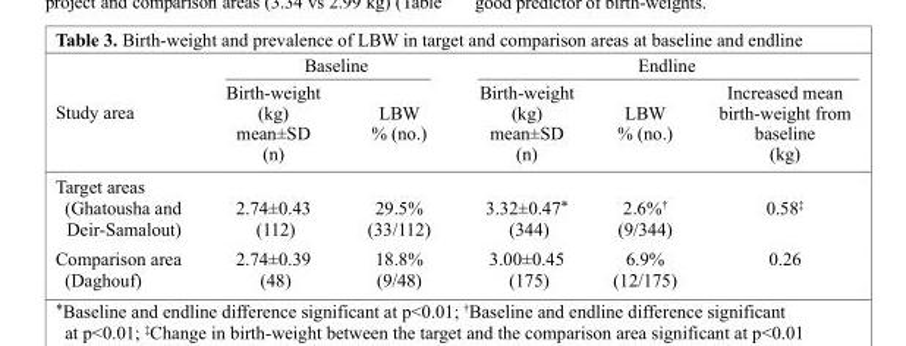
<table><thead><tr><td rowspan="2">Study area</td><td colspan="2">Baseline</td><td colspan="3">Endline</td></tr><tr><td>Birth-weight (kg) mean±SD (n)</td><td>LBW % (no.)</td><td>Birth-weight (kg) mean±SD (n)</td><td>LBW % (no.)</td><td>Increased mean birth-weight from baseline (kg)</td></tr></thead><tbody><tr><td>Target areas (Ghatousha and Deir-Samalout)</td><td>2.74±0.43 (112)</td><td>29.5% (33/112)</td><td>3.32±0.47* (344)</td><td>2.6%† (9/344)</td><td>0.58‡</td></tr><tr><td>Comparison area (Daghouf)</td><td>2.74±0.39 (48)</td><td>18.8% (9/48)</td><td>3.00±0.45 (175)</td><td>6.9% (12/175)</td><td>0.26</td></tr></tbody></table>